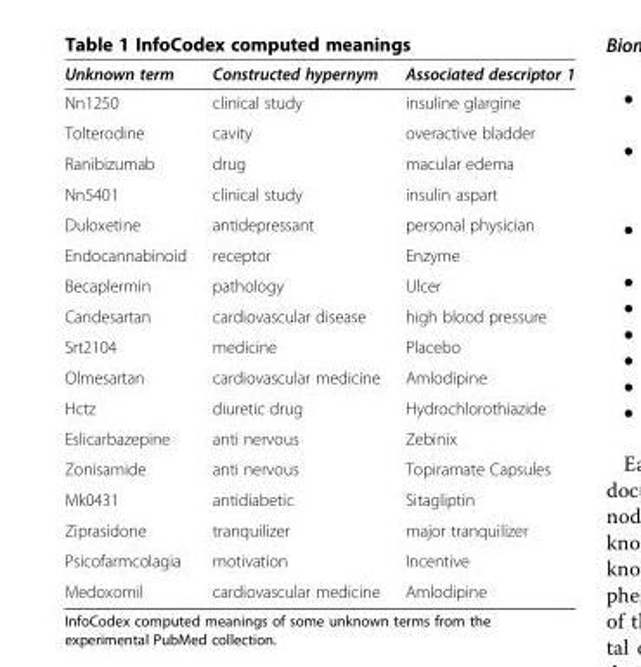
<table><thead><tr><td>Unknown term</td><td>Constructed hypernym</td><td>Associated descriptor 1</td></tr></thead><tbody><tr><td>Nn1250</td><td>clinical study</td><td>insuline glargine</td></tr><tr><td>Tolterodine</td><td>cavity</td><td>overactive bladder</td></tr><tr><td>Ranibizumab</td><td>drug</td><td>macular edema</td></tr><tr><td>Nn5401</td><td>clinical study</td><td>insulin aspart</td></tr><tr><td>Duloxetine</td><td>antidepressant</td><td>personal physician</td></tr><tr><td>Endocannabinoid</td><td>receptor</td><td>Enzyme</td></tr><tr><td>Becaplermin</td><td>pathology</td><td>Ulcer</td></tr><tr><td>Candesartan</td><td>cardiovascular disease</td><td>high blood pressure</td></tr><tr><td>Srt2104</td><td>medicine</td><td>Placebo</td></tr><tr><td>Olmesartan</td><td>cardiovascular medicine</td><td>Amlodipine</td></tr><tr><td>Hctz</td><td>diuretic drug</td><td>Hydrochlorothiazide</td></tr><tr><td>Eslicarbazepine</td><td>anti nervous</td><td>Zebinix</td></tr><tr><td>Zonisamide</td><td>anti nervous</td><td>Topiramate Capsules</td></tr><tr><td>Mk0431</td><td>antidiabetic</td><td>Sitagliptin</td></tr><tr><td>Ziprasidone</td><td>tranquilizer</td><td>major tranquilizer</td></tr><tr><td>Psicofarmcolagia</td><td>motivation</td><td>Incentive</td></tr><tr><td>Medoxomil</td><td>cardiovascular medicine</td><td>Amlodipine</td></tr></tbody></table>